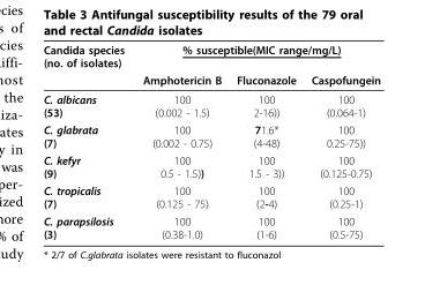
<table><thead><tr><td rowspan="2">Candida species (no. of isolates)</td><td colspan="3">% susceptible(MIC range/mg/L)</td></tr><tr><td>Amphotericin B</td><td>Fluconazole</td><td>Caspofungein</td></tr></thead><tbody><tr><td>C. albicans (53)</td><td>100 (0.002 - 1.5)</td><td>100 2-16))</td><td>100 (0.064-1)</td></tr><tr><td>C. glabrata (7)</td><td>100 (0.002 - 0.75)</td><td>71.6* (4-48)</td><td>100 0.25-75))</td></tr><tr><td>C. kefyr (9)</td><td>100 0.5 - 1.5))</td><td>100 1.5 - 3))</td><td>100 (0.125-0.75)</td></tr><tr><td>C. tropicalis (7)</td><td>100 (0.125 - 75)</td><td>100 (2-4)</td><td>100 (0.25-1)</td></tr><tr><td>C. parapsilosis (3)</td><td>100 (0.38-1.0)</td><td>100 (1-6)</td><td>100 (0.5-75)</td></tr></tbody></table>